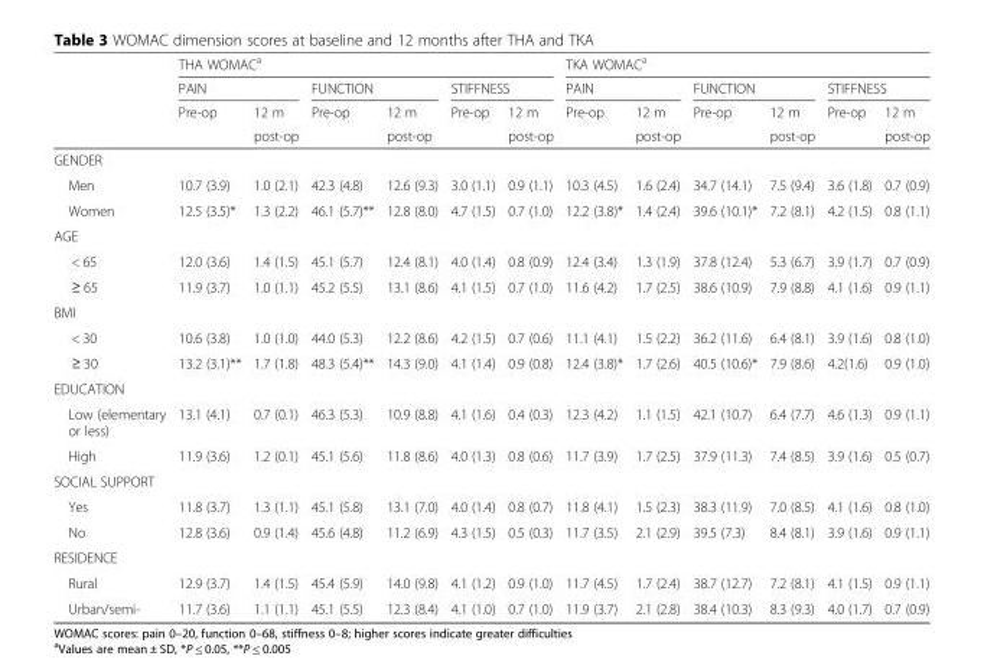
<table><thead><tr><td rowspan="4"></td><td colspan="6">THA WOMAC<sup>a</sup></td><td colspan="6">TKA WOMAC<sup>a</sup></td></tr><tr><td colspan="2">PAIN</td><td colspan="2">FUNCTION</td><td colspan="2">STIFFNESS</td><td colspan="2">PAIN</td><td colspan="2">FUNCTION</td><td colspan="2">STIFFNESS</td></tr><tr><td rowspan="2">Pre-op</td><td rowspan="2">12 m post-op</td><td rowspan="2">Pre-op</td><td rowspan="2">12 m post-op</td><td rowspan="2">Pre-op</td><td rowspan="2">12 m post-op</td><td rowspan="2">Pre-op</td><td rowspan="2">12 m post-op</td><td rowspan="2">Pre-op</td><td rowspan="2">12 m post-op</td><td rowspan="2">Pre-op</td><td rowspan="2">12 m post-op</td></tr><tr></tr></thead><tbody><tr><td colspan="13">GENDER</td></tr><tr><td>Men</td><td>10.7 (3.9)</td><td>1.0 (2.1)</td><td>42.3 (4.8)</td><td>12.6 (9.3)</td><td>3.0 (1.1)</td><td>0.9 (1.1)</td><td>10.3 (4.5)</td><td>1.6 (2.4)</td><td>34.7 (14.1)</td><td>7.5 (9.4)</td><td>3.6 (1.8)</td><td>0.7 (0.9)</td></tr><tr><td>Women</td><td>12.5 (3.5)*</td><td>1.3 (2.2)</td><td>46.1 (5.7)**</td><td>12.8 (8.0)</td><td>4.7 (1.5)</td><td>0.7 (1.0)</td><td>12.2 (3.8)*</td><td>1.4 (2.4)</td><td>39.6 (10.1)*</td><td>7.2 (8.1)</td><td>4.2 (1.5)</td><td>0.8 (1.1)</td></tr><tr><td colspan="13">AGE</td></tr><tr><td>&lt; 65</td><td>12.0 (3.6)</td><td>1.4 (1.5)</td><td>45.1 (5.7)</td><td>12.4 (8.1)</td><td>4.0 (1.4)</td><td>0.8 (0.9)</td><td>12.4 (3.4)</td><td>1.3 (1.9)</td><td>37.8 (12.4)</td><td>5.3 (6.7)</td><td>3.9 (1.7)</td><td>0.7 (0.9)</td></tr><tr><td>≥ 65</td><td>11.9 (3.7)</td><td>1.0 (1.1)</td><td>45.2 (5.5)</td><td>13.1 (8.6)</td><td>4.1 (1.5)</td><td>0.7 (1.0)</td><td>11.6 (4.2)</td><td>1.7 (2.5)</td><td>38.6 (10.9)</td><td>7.9 (8.8)</td><td>4.1 (1.6)</td><td>0.9 (1.1)</td></tr><tr><td colspan="13">BMI</td></tr><tr><td>&lt; 30</td><td>10.6 (3.8)</td><td>1.0 (1.0)</td><td>44.0 (5.3)</td><td>12.2 (8.6)</td><td>4.2 (1.5)</td><td>0.7 (0.6)</td><td>11.1 (4.1)</td><td>1.5 (2.2)</td><td>36.2 (11.6)</td><td>6.4 (8.1)</td><td>3.9 (1.6)</td><td>0.8 (1.0)</td></tr><tr><td>≥ 30</td><td>13.2 (3.1)**</td><td>1.7 (1.8)</td><td>48.3 (5.4)**</td><td>14.3 (9.0)</td><td>4.1 (1.4)</td><td>0.9 (0.8)</td><td>12.4 (3.8)*</td><td>1.7 (2.6)</td><td>40.5 (10.6)*</td><td>7.9 (8.6)</td><td>4.2(1.6)</td><td>0.9 (1.0)</td></tr><tr><td colspan="13">EDUCATION</td></tr><tr><td>Low (elementary or less)</td><td>13.1 (4.1)</td><td>0.7 (0.1)</td><td>46.3 (5.3)</td><td>10.9 (8.8)</td><td>4.1 (1.6)</td><td>0.4 (0.3)</td><td>12.3 (4.2)</td><td>1.1 (1.5)</td><td>42.1 (10.7)</td><td>6.4 (7.7)</td><td>4.6 (1.3)</td><td>0.9 (1.1)</td></tr><tr><td>High</td><td>11.9 (3.6)</td><td>1.2 (0.1)</td><td>45.1 (5.6)</td><td>11.8 (8.6)</td><td>4.0 (1.3)</td><td>0.8 (0.6)</td><td>11.7 (3.9)</td><td>1.7 (2.5)</td><td>37.9 (11.3)</td><td>7.4 (8.5)</td><td>3.9 (1.6)</td><td>0.5 (0.7)</td></tr><tr><td colspan="13">SOCIAL SUPPORT</td></tr><tr><td>Yes</td><td>11.8 (3.7)</td><td>1.3 (1.1)</td><td>45.1 (5.8)</td><td>13.1 (7.0)</td><td>4.0 (1.4)</td><td>0.8 (0.7)</td><td>11.8 (4.1)</td><td>1.5 (2.3)</td><td>38.3 (11.9)</td><td>7.0 (8.5)</td><td>4.1 (1.6)</td><td>0.8 (1.0)</td></tr><tr><td>No</td><td>12.8 (3.6)</td><td>0.9 (1.4)</td><td>45.6 (4.8)</td><td>11.2 (6.9)</td><td>4.3 (1.5)</td><td>0.5 (0.3)</td><td>11.7 (3.5)</td><td>2.1 (2.9)</td><td>39.5 (7.3)</td><td>8.4 (8.1)</td><td>3.9 (1.6)</td><td>0.9 (1.1)</td></tr><tr><td colspan="13">RESIDENCE</td></tr><tr><td>Rural</td><td>12.9 (3.7)</td><td>1.4 (1.5)</td><td>45.4 (5.9)</td><td>14.0 (9.8)</td><td>4.1 (1.2)</td><td>0.9 (1.0)</td><td>11.7 (4.5)</td><td>1.7 (2.4)</td><td>38.7 (12.7)</td><td>7.2 (8.1)</td><td>4.1 (1.5)</td><td>0.9 (1.1)</td></tr><tr><td>Urban/semi-</td><td>11.7 (3.6)</td><td>1.1 (1.1)</td><td>45.1 (5.5)</td><td>12.3 (8.4)</td><td>4.1 (1.0)</td><td>0.7 (1.0)</td><td>11.9 (3.7)</td><td>2.1 (2.8)</td><td>38.4 (10.3)</td><td>8.3 (9.3)</td><td>4.0 (1.7)</td><td>0.7 (0.9)</td></tr></tbody></table>